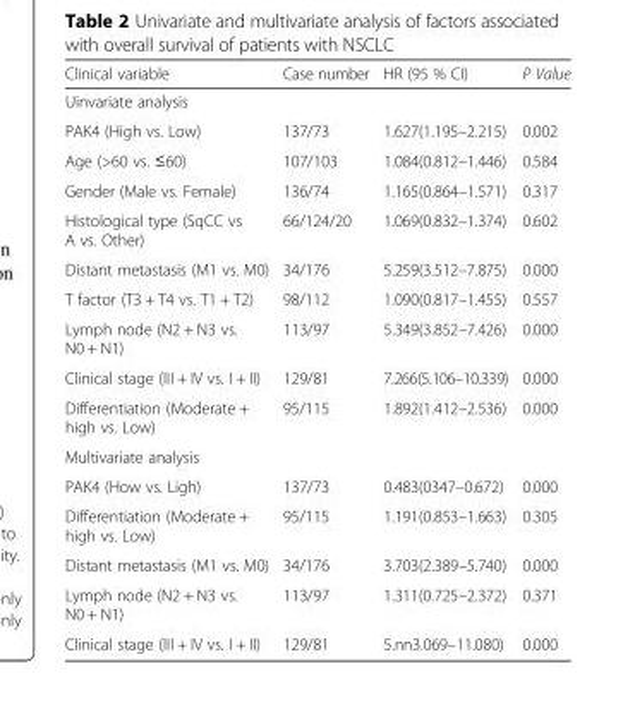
<table><thead><tr><td>Clinical variable</td><td>Case number</td><td>HR (95 % CI)</td><td>P Value</td></tr></thead><tbody><tr><td colspan="4">Uinvariate analysis</td></tr><tr><td>PAK4 (High vs. Low)</td><td>137/73</td><td>1.627(1.195–2.215)</td><td>0.002</td></tr><tr><td>Age (&gt;60 vs. ≤60)</td><td>107/103</td><td>1.084(0.812–1.446)</td><td>0.584</td></tr><tr><td>Gender (Male vs. Female)</td><td>136/74</td><td>1.165(0.864–1.571)</td><td>0.317</td></tr><tr><td>Histological type (SqCC vs A vs. Other)</td><td>66/124/20</td><td>1.069(0.832–1.374)</td><td>0.602</td></tr><tr><td>Distant metastasis (M1 vs. M0)</td><td>34/176</td><td>5.259(3.512–7.875)</td><td>0.000</td></tr><tr><td>T factor (T3 + T4 vs. T1 + T2)</td><td>98/112</td><td>1.090(0.817–1.455)</td><td>0.557</td></tr><tr><td>Lymph node (N2 + N3 vs. N0 + N1)</td><td>113/97</td><td>5.349(3.852–7.426)</td><td>0.000</td></tr><tr><td>Clinical stage (III + IV vs. I + II)</td><td>129/81</td><td>7.266(5.106–10.339)</td><td>0.000</td></tr><tr><td>Differentiation (Moderate + high vs. Low)</td><td>95/115</td><td>1.892(1.412–2.536)</td><td>0.000</td></tr><tr><td colspan="4">Multivariate analysis</td></tr><tr><td>PAK4 (How vs. Ligh)</td><td>137/73</td><td>0.483(0347–0.672)</td><td>0.000</td></tr><tr><td>Differentiation (Moderate + high vs. Low)</td><td>95/115</td><td>1.191(0.853–1.663)</td><td>0.305</td></tr><tr><td>Distant metastasis (M1 vs. M0)</td><td>34/176</td><td>3.703(2.389–5.740)</td><td>0.000</td></tr><tr><td>Lymph node (N2 + N3 vs. N0 + N1)</td><td>113/97</td><td>1.311(0.725–2.372)</td><td>0.371</td></tr><tr><td>Clinical stage (III + IV vs. I + II)</td><td>129/81</td><td>5.nn3.069–11.080)</td><td>0.000</td></tr></tbody></table>